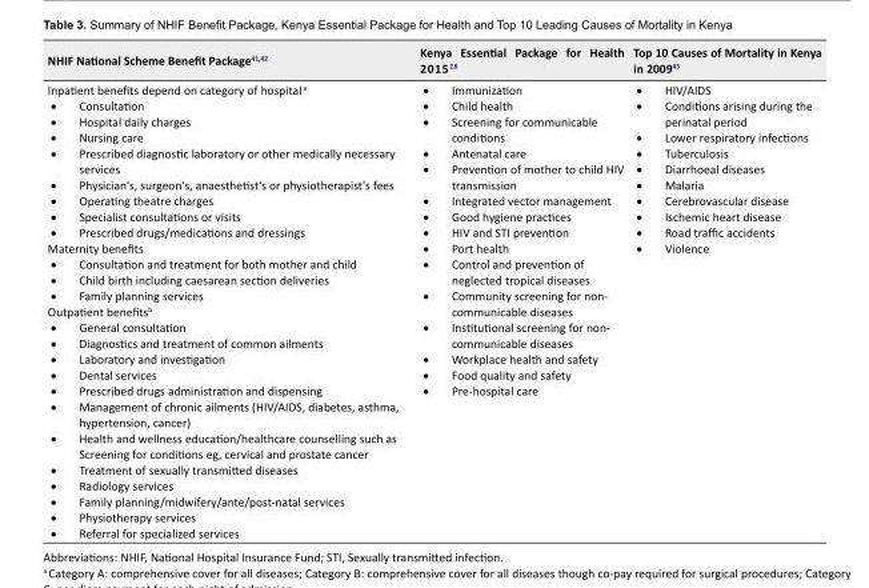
<table><tbody><tr><td>NHIF National Scheme Benefit Package<sup>41,42</sup></td><td>Kenya Essential Package for Health 2015<sup>28</sup></td><td>Top 10 Causes of Mortality in Kenya in 2009<sup>43</sup></td></tr><tr><td>Inpatient benefits depend on category of hospital <sup>a</sup> • Consultation • Hospital daily charges • Nursing care • Prescribed diagnostic laboratory or other medically necessary services • Physician&#x27;s, surgeon&#x27;s, anaesthetist’s or physiotherapist&#x27;s fees • Operating theatre charges • Specialist consultations or visits • Prescribed drugs/medications and dressings Maternity benefits • Consultation and treatment for both mother and child • Child birth including caesarean section deliveries • Family planning services Outpatient benefits<sup>b</sup> • General consultation • Diagnostics and treatment of common ailments • Laboratory and investigation • Dental services • Prescribed drugs administration and dispensing • Management of chronic ailments (HIV/AIDS, diabetes, asthma, hypertension, cancer) • Health and wellness education/healthcare counselling such as Screening for conditions eg, cervical and prostate cancer • Treatment of sexually transmitted diseases • Radiology services • Family planning/midwifery/ante/post-natal services • Physiotherapy services • Referral for specialized services</td><td>• Immunization • Child health • Screening for communicable conditions • Antenatal care • Prevention of mother to child HIV transmission • Integrated vector management • Good hygiene practices • HIV and STI prevention • Port health • Control and prevention of neglected tropical diseases • Community screening for non- communicable diseases • Institutional screening for non- communicable diseases • Workplace health and safety • Food quality and safety • Pre-hospital care</td><td>• HIV/AIDS • Conditions arising during the perinatal period • Lower respiratory infections • Tuberculosis • Diarrhoeal diseases • Malaria • Cerebrovascular disease • Ischemic heart disease • Road traffic accidents • Violence</td></tr></tbody></table>